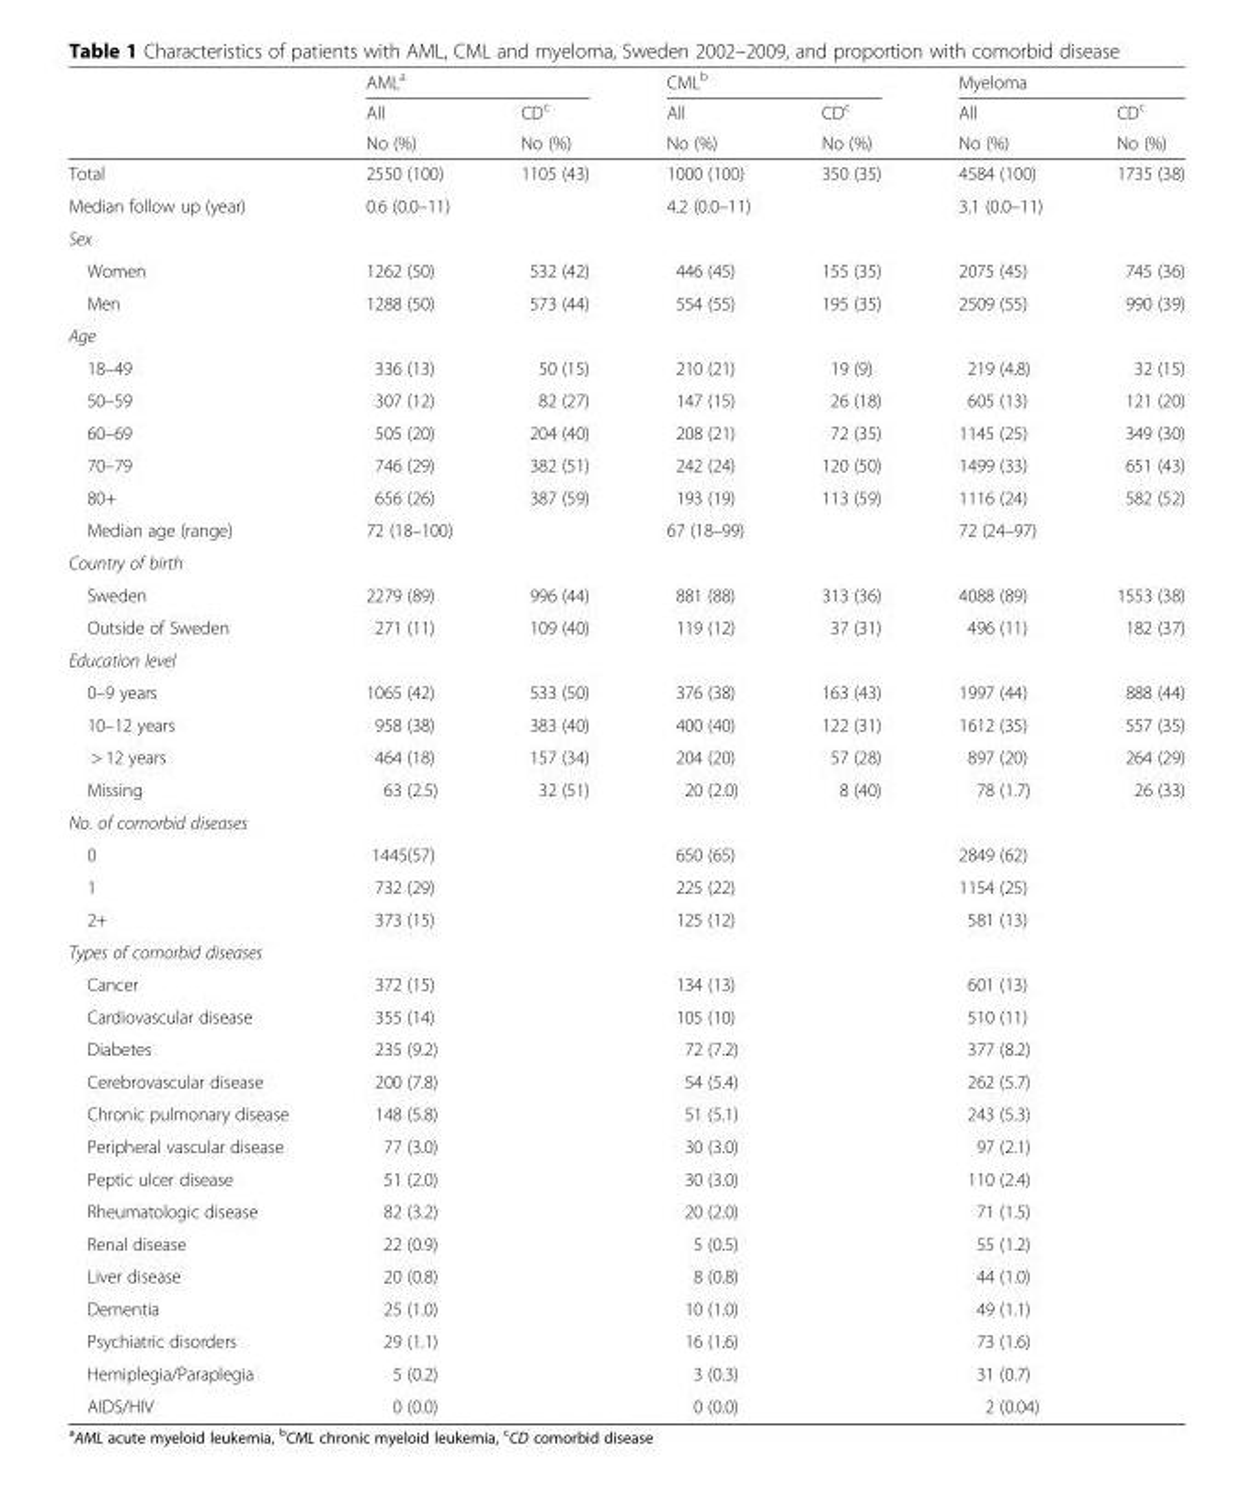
<table><thead><tr><td rowspan="3"></td><td colspan="2">AML<sup>a</sup></td><td colspan="2">CML<sup>b</sup></td><td colspan="2">Myeloma</td></tr><tr><td rowspan="2">All No (%)</td><td rowspan="2">CD<sup>c</sup> No (%)</td><td rowspan="2">All No (%)</td><td rowspan="2">CD<sup>c</sup> No (%)</td><td rowspan="2">All No (%)</td><td rowspan="2">CD<sup>c</sup> No (%)</td></tr><tr></tr></thead><tbody><tr><td>Total</td><td>2550 (100)</td><td>1105 (43)</td><td>1000 (100)</td><td>350 (35)</td><td>4584 (100)</td><td>1735 (38)</td></tr><tr><td>Median follow up (year)</td><td colspan="2">0.6 (0.0–11)</td><td colspan="2">4.2 (0.0–11)</td><td colspan="2">3.1 (0.0–11)</td></tr><tr><td colspan="7">Sex</td></tr><tr><td>Women</td><td>1262 (50)</td><td>532 (42)</td><td>446 (45)</td><td>155 (35)</td><td>2075 (45)</td><td>745 (36)</td></tr><tr><td>Men</td><td>1288 (50)</td><td>573 (44)</td><td>554 (55)</td><td>195 (35)</td><td>2509 (55)</td><td>990 (39)</td></tr><tr><td colspan="7">Age</td></tr><tr><td>18–49</td><td>336 (13)</td><td>50 (15)</td><td>210 (21)</td><td>19 (9)</td><td>219 (4.8)</td><td>32 (15)</td></tr><tr><td>50–59</td><td>307 (12)</td><td>82 (27)</td><td>147 (15)</td><td>26 (18)</td><td>605 (13)</td><td>121 (20)</td></tr><tr><td>60–69</td><td>505 (20)</td><td>204 (40)</td><td>208 (21)</td><td>72 (35)</td><td>1145 (25)</td><td>349 (30)</td></tr><tr><td>70–79</td><td>746 (29)</td><td>382 (51)</td><td>242 (24)</td><td>120 (50)</td><td>1499 (33)</td><td>651 (43)</td></tr><tr><td>80+</td><td>656 (26)</td><td>387 (59)</td><td>193 (19)</td><td>113 (59)</td><td>1116 (24)</td><td>582 (52)</td></tr><tr><td>Median age (range)</td><td colspan="2">72 (18–100)</td><td colspan="2">67 (18–99)</td><td colspan="2">72 (24–97)</td></tr><tr><td colspan="7">Country of birth</td></tr><tr><td>Sweden</td><td>2279 (89)</td><td>996 (44)</td><td>881 (88)</td><td>313 (36)</td><td>4088 (89)</td><td>1553 (38)</td></tr><tr><td>Outside of Sweden</td><td>271 (11)</td><td>109 (40)</td><td>119 (12)</td><td>37 (31)</td><td>496 (11)</td><td>182 (37)</td></tr><tr><td colspan="7">Education level</td></tr><tr><td>0–9 years</td><td>1065 (42)</td><td>533 (50)</td><td>376 (38)</td><td>163 (43)</td><td>1997 (44)</td><td>888 (44)</td></tr><tr><td>10–12 years</td><td>958 (38)</td><td>383 (40)</td><td>400 (40)</td><td>122 (31)</td><td>1612 (35)</td><td>557 (35)</td></tr><tr><td>&gt; 12 years</td><td>464 (18)</td><td>157 (34)</td><td>204 (20)</td><td>57 (28)</td><td>897 (20)</td><td>264 (29)</td></tr><tr><td>Missing</td><td>63 (2.5)</td><td>32 (51)</td><td>20 (2.0)</td><td>8 (40)</td><td>78 (1.7)</td><td>26 (33)</td></tr><tr><td colspan="7">No. of comorbid diseases</td></tr><tr><td>0</td><td>1445(57)</td><td rowspan="3"></td><td>650 (65)</td><td rowspan="3"></td><td>2849 (62)</td><td rowspan="3"></td></tr><tr><td>1</td><td>732 (29)</td><td>225 (22)</td><td>1154 (25)</td></tr><tr><td>2+</td><td>373 (15)</td><td>125 (12)</td><td>581 (13)</td></tr><tr><td colspan="7">Types of comorbid diseases</td></tr><tr><td>Cancer</td><td>372 (15)</td><td rowspan="14"></td><td>134 (13)</td><td rowspan="14"></td><td>601 (13)</td><td rowspan="14"></td></tr><tr><td>Cardiovascular disease</td><td>355 (14)</td><td>105 (10)</td><td>510 (11)</td></tr><tr><td>Diabetes</td><td>235 (9.2)</td><td>72 (7.2)</td><td>377 (8.2)</td></tr><tr><td>Cerebrovascular disease</td><td>200 (7.8)</td><td>54 (5.4)</td><td>262 (5.7)</td></tr><tr><td>Chronic pulmonary disease</td><td>148 (5.8)</td><td>51 (5.1)</td><td>243 (5.3)</td></tr><tr><td>Peripheral vascular disease</td><td>77 (3.0)</td><td>30 (3.0)</td><td>97 (2.1)</td></tr><tr><td>Peptic ulcer disease</td><td>51 (2.0)</td><td>30 (3.0)</td><td>110 (2.4)</td></tr><tr><td>Rheumatologic disease</td><td>82 (3.2)</td><td>20 (2.0)</td><td>71 (1.5)</td></tr><tr><td>Renal disease</td><td>22 (0.9)</td><td>5 (0.5)</td><td>55 (1.2)</td></tr><tr><td>Liver disease</td><td>20 (0.8)</td><td>8 (0.8)</td><td>44 (1.0)</td></tr><tr><td>Dementia</td><td>25 (1.0)</td><td>10 (1.0)</td><td>49 (1.1)</td></tr><tr><td>Psychiatric disorders</td><td>29 (1.1)</td><td>16 (1.6)</td><td>73 (1.6)</td></tr><tr><td>Hemiplegia/Paraplegia</td><td>5 (0.2)</td><td>3 (0.3)</td><td>31 (0.7)</td></tr><tr><td>AIDS/HIV</td><td>0 (0.0)</td><td>0 (0.0)</td><td>2 (0.04)</td></tr></tbody></table>